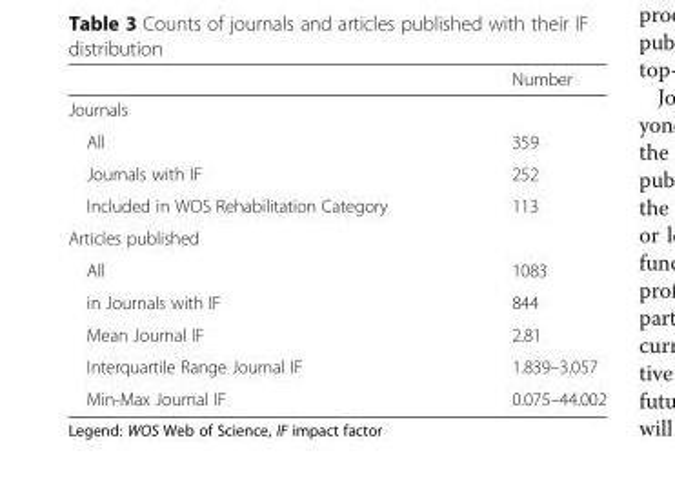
<table><thead><tr><td></td><td>Number</td></tr></thead><tbody><tr><td colspan="2">Journals</td></tr><tr><td>All</td><td>359</td></tr><tr><td>Journals with IF</td><td>252</td></tr><tr><td>Included in WOS Rehabilitation Category</td><td>113</td></tr><tr><td colspan="2">Articles published</td></tr><tr><td>All</td><td>1083</td></tr><tr><td>in Journals with IF</td><td>844</td></tr><tr><td>Mean Journal IF</td><td>2.81</td></tr><tr><td>Interquartile Range Journal IF</td><td>1.839–3.057</td></tr><tr><td>Min-Max Journal IF</td><td>0.075–44.002</td></tr></tbody></table>